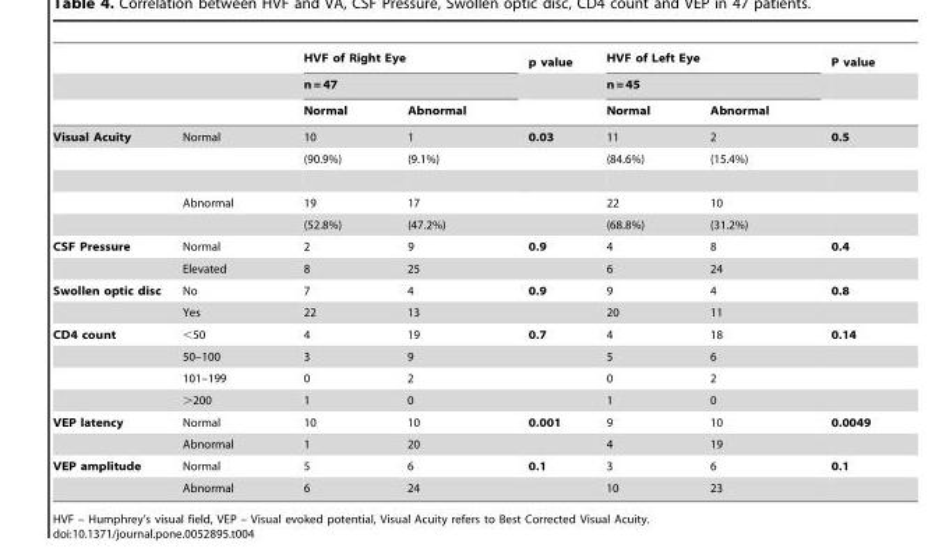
<table><thead><tr><td rowspan="3"></td><td rowspan="3"></td><td rowspan="2" colspan="2">HVF of Right Eye n = 47</td><td rowspan="3">p value</td><td rowspan="2" colspan="2">HVF of Left Eye n = 45</td><td rowspan="3">P value</td></tr><tr></tr><tr><td>Normal</td><td>Abnormal</td><td>Normal</td><td>Abnormal</td></tr></thead><tbody><tr><td rowspan="4">Visual Acuity</td><td>Normal</td><td>10</td><td>1</td><td>0.03</td><td>11</td><td>2</td><td>0.5</td></tr><tr><td></td><td>(90.9%)</td><td>(9.1%)</td><td></td><td>(84.6%)</td><td>(15.4%)</td><td></td></tr><tr><td>Abnormal</td><td>19</td><td>17</td><td></td><td>22</td><td>10</td><td></td></tr><tr><td></td><td>(52.8%)</td><td>(47.2%)</td><td></td><td>(68.8%)</td><td>(31.2%)</td><td></td></tr><tr><td rowspan="2">CSF Pressure</td><td>Normal</td><td>2</td><td>9</td><td>0.9</td><td>4</td><td>8</td><td>0.4</td></tr><tr><td>Elevated</td><td>8</td><td>25</td><td></td><td>6</td><td>24</td><td></td></tr><tr><td rowspan="2">Swollen optic disc</td><td>No</td><td>7</td><td>4</td><td>0.9</td><td>9</td><td>4</td><td>0.8</td></tr><tr><td>Yes</td><td>22</td><td>13</td><td></td><td>20</td><td>11</td><td></td></tr><tr><td rowspan="4">CD4 count</td><td>&lt;50</td><td>4</td><td>19</td><td>0.7</td><td>4</td><td>18</td><td>0.14</td></tr><tr><td>50–100</td><td>3</td><td>9</td><td></td><td>5</td><td>6</td><td></td></tr><tr><td>101–199</td><td>0</td><td>2</td><td></td><td>0</td><td>2</td><td></td></tr><tr><td>&gt;200</td><td>1</td><td>0</td><td></td><td>1</td><td>0</td><td></td></tr><tr><td rowspan="2">VEP latency</td><td>Normal</td><td>10</td><td>10</td><td>0.001</td><td>9</td><td>10</td><td>0.0049</td></tr><tr><td>Abnormal</td><td>1</td><td>20</td><td></td><td>4</td><td>19</td><td></td></tr><tr><td rowspan="2">VEP amplitude</td><td>Normal</td><td>5</td><td>6</td><td>0.1</td><td>3</td><td>6</td><td>0.1</td></tr><tr><td>Abnormal</td><td>6</td><td>24</td><td></td><td>10</td><td>23</td><td></td></tr></tbody></table>